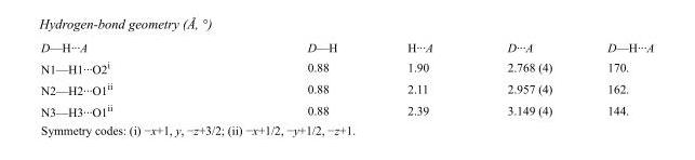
<table><tbody><tr><td>D—H···A</td><td>D—H</td><td>H···A</td><td>D···A</td><td>D—H···A</td></tr><tr><td>N1—H1···O2<sup>i</sup></td><td>0.88</td><td>1.90</td><td>2.768 (4)</td><td>170.</td></tr><tr><td>N2—H2···O1<sup>ii</sup></td><td>0.88</td><td>2.11</td><td>2.957 (4)</td><td>162.</td></tr><tr><td>N3—H3···O1<sup>ii</sup></td><td>0.88</td><td>2.39</td><td>3.149 (4)</td><td>144.</td></tr></tbody></table>